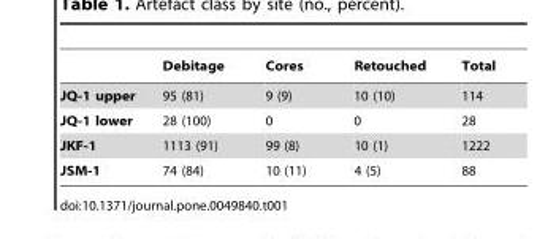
<table><thead><tr><td></td><td>Debitage</td><td>Cores</td><td>Retouched</td><td>Total</td></tr></thead><tbody><tr><td>JQ-1 upper</td><td>95 (81)</td><td>9 (9)</td><td>10 (10)</td><td>114</td></tr><tr><td>JQ-1 lower</td><td>28 (100)</td><td>0</td><td>0</td><td>28</td></tr><tr><td>JKF-1</td><td>1113 (91)</td><td>99 (8)</td><td>10 (1)</td><td>1222</td></tr><tr><td>JSM-1</td><td>74 (84)</td><td>10 (11)</td><td>4 (5)</td><td>88</td></tr></tbody></table>